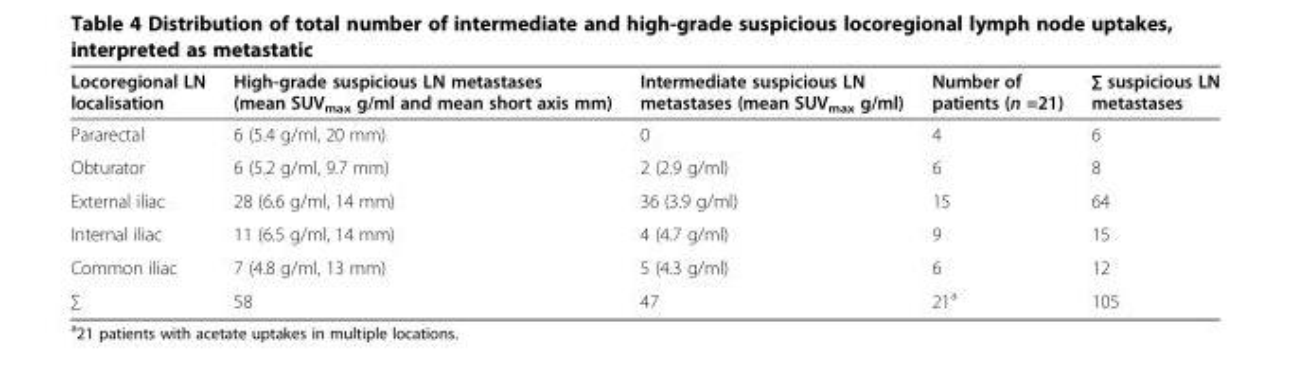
<table><thead><tr><td>Locoregional LN localisation</td><td>High-grade suspicious LN metastases (mean SUV<sub>max</sub> g/ml and mean short axis mm)</td><td>Intermediate suspicious LN metastases (mean SUV<sub>max</sub> g/ml)</td><td>Number of patients (n =21)</td><td>∑ suspicious LN metastases</td></tr></thead><tbody><tr><td>Pararectal</td><td>6 (5.4 g/ml, 20 mm)</td><td>0</td><td>4</td><td>6</td></tr><tr><td>Obturator</td><td>6 (5.2 g/ml, 9.7 mm)</td><td>2 (2.9 g/ml)</td><td>6</td><td>8</td></tr><tr><td>External iliac</td><td>28 (6.6 g/ml, 14 mm)</td><td>36 (3.9 g/ml)</td><td>15</td><td>64</td></tr><tr><td>Internal iliac</td><td>11 (6.5 g/ml, 14 mm)</td><td>4 (4.7 g/ml)</td><td>9</td><td>15</td></tr><tr><td>Common iliac</td><td>7 (4.8 g/ml, 13 mm)</td><td>5 (4.3 g/ml)</td><td>6</td><td>12</td></tr><tr><td>∑</td><td>58</td><td>47</td><td>21<sup>a</sup></td><td>105</td></tr></tbody></table>